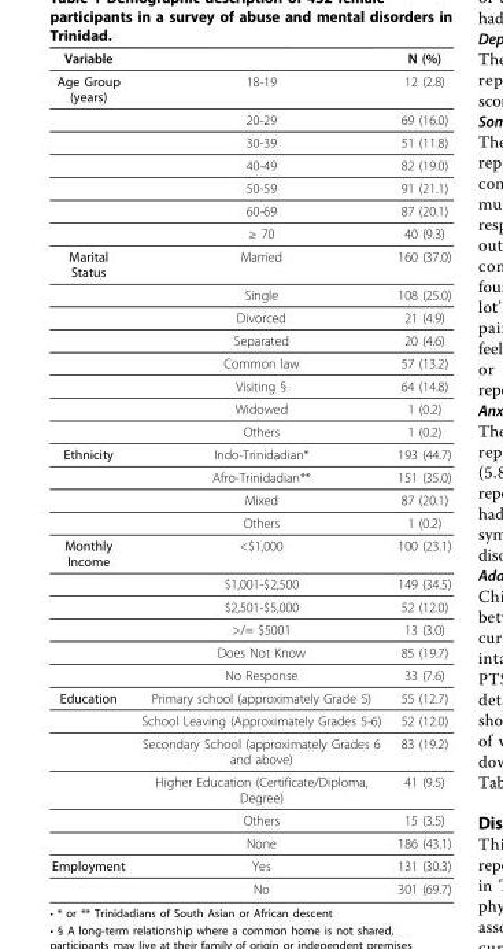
<table><thead><tr><td>Variable</td><td></td><td>N (%)</td></tr></thead><tbody><tr><td rowspan="7">Age Group (years)</td><td>18-19</td><td>12 (2.8)</td></tr><tr><td>20-29</td><td>69 (16.0)</td></tr><tr><td>30-39</td><td>51 (11.8)</td></tr><tr><td>40-49</td><td>82 (19.0)</td></tr><tr><td>50-59</td><td>91 (21.1)</td></tr><tr><td>60-69</td><td>87 (20.1)</td></tr><tr><td>≥ 70</td><td>40 (9.3)</td></tr><tr><td rowspan="8">Marital Status</td><td>Married</td><td>160 (37.0)</td></tr><tr><td>Single</td><td>108 (25.0)</td></tr><tr><td>Divorced</td><td>21 (4.9)</td></tr><tr><td>Separated</td><td>20 (4.6)</td></tr><tr><td>Common law</td><td>57 (13.2)</td></tr><tr><td>Visiting §</td><td>64 (14.8)</td></tr><tr><td>Widowed</td><td>1 (0.2)</td></tr><tr><td>Others</td><td>1 (0.2)</td></tr><tr><td rowspan="4">Ethnicity</td><td>Indo-Trinidadian*</td><td>193 (44.7)</td></tr><tr><td>Afro-Trinidadian**</td><td>151 (35.0)</td></tr><tr><td>Mixed</td><td>87 (20.1)</td></tr><tr><td>Others</td><td>1 (0.2)</td></tr><tr><td rowspan="6">Monthly Income</td><td>&lt;$1,000</td><td>100 (23.1)</td></tr><tr><td>$1,001-$2,500</td><td>149 (34.5)</td></tr><tr><td>$2,501-$5,000</td><td>52 (12.0)</td></tr><tr><td>&gt;/= $5001</td><td>13 (3.0)</td></tr><tr><td>Does Not Know</td><td>85 (19.7)</td></tr><tr><td>No Response</td><td>33 (7.6)</td></tr><tr><td rowspan="6">Education</td><td>Primary school (approximately Grade 5)</td><td>55 (12.7)</td></tr><tr><td>School Leaving (Approximately Grades 5-6)</td><td>52 (12.0)</td></tr><tr><td>Secondary School (approximately Grades 6 and above)</td><td>83 (19.2)</td></tr><tr><td>Higher Education (Certificate/Diploma, Degree)</td><td>41 (9.5)</td></tr><tr><td>Others</td><td>15 (3.5)</td></tr><tr><td>None</td><td>186 (43.1)</td></tr><tr><td rowspan="2">Employment</td><td>Yes</td><td>131 (30.3)</td></tr><tr><td>No</td><td>301 (69.7)</td></tr></tbody></table>